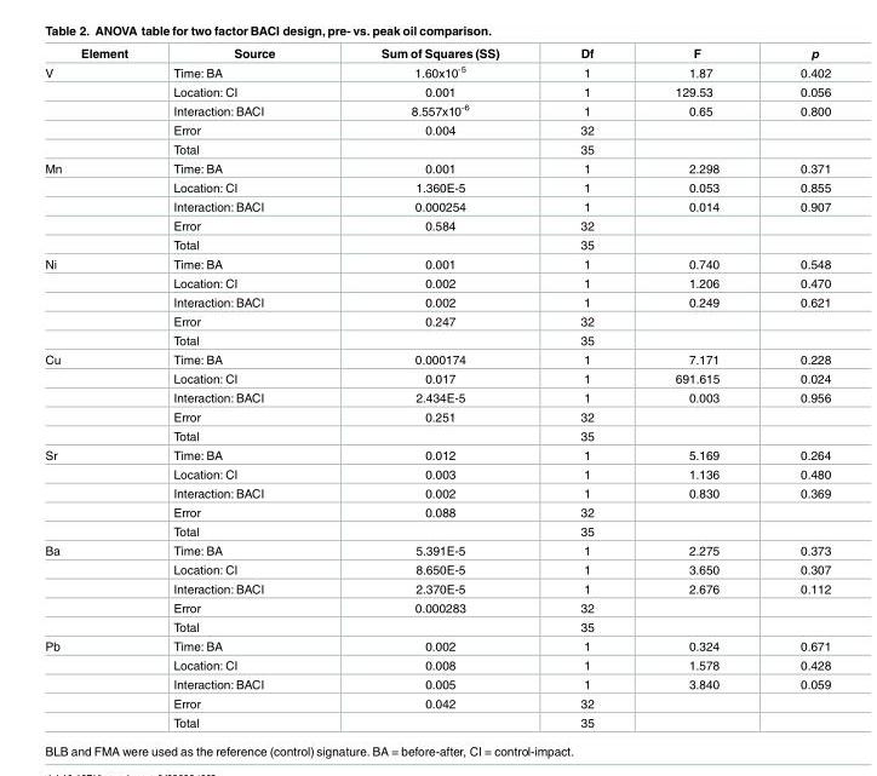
<table><thead><tr><td>Element</td><td>Source</td><td>Sum of Squares (SS)</td><td>Df</td><td>F</td><td>p</td></tr></thead><tbody><tr><td rowspan="5">V</td><td>Time: BA</td><td>1.60x10<sup>-5</sup></td><td>1</td><td>1.87</td><td>0.402</td></tr><tr><td>Location: CI</td><td>0.001</td><td>1</td><td>129.53</td><td>0.056</td></tr><tr><td>Interaction: BACI</td><td>8.557x10<sup>-6</sup></td><td>1</td><td>0.65</td><td>0.800</td></tr><tr><td>Error</td><td>0.004</td><td>32</td><td></td><td></td></tr><tr><td>Total</td><td></td><td>35</td><td></td><td></td></tr><tr><td rowspan="5">Mn</td><td>Time: BA</td><td>0.001</td><td>1</td><td>2.298</td><td>0.371</td></tr><tr><td>Location: CI</td><td>1.360E-5</td><td>1</td><td>0.053</td><td>0.855</td></tr><tr><td>Interaction: BACI</td><td>0.000254</td><td>1</td><td>0.014</td><td>0.907</td></tr><tr><td>Error</td><td>0.584</td><td>32</td><td></td><td></td></tr><tr><td>Total</td><td></td><td>35</td><td></td><td></td></tr><tr><td rowspan="5">Ni</td><td>Time: BA</td><td>0.001</td><td>1</td><td>0.740</td><td>0.548</td></tr><tr><td>Location: CI</td><td>0.002</td><td>1</td><td>1.206</td><td>0.470</td></tr><tr><td>Interaction: BACI</td><td>0.002</td><td>1</td><td>0.249</td><td>0.621</td></tr><tr><td>Error</td><td>0.247</td><td>32</td><td></td><td></td></tr><tr><td>Total</td><td></td><td>35</td><td></td><td></td></tr><tr><td rowspan="5">Cu</td><td>Time: BA</td><td>0.000174</td><td>1</td><td>7.171</td><td>0.228</td></tr><tr><td>Location: CI</td><td>0.017</td><td>1</td><td>691.615</td><td>0.024</td></tr><tr><td>Interaction: BACI</td><td>2.434E-5</td><td>1</td><td>0.003</td><td>0.956</td></tr><tr><td>Error</td><td>0.251</td><td>32</td><td></td><td></td></tr><tr><td>Total</td><td></td><td>35</td><td></td><td></td></tr><tr><td rowspan="5">Sr</td><td>Time: BA</td><td>0.012</td><td>1</td><td>5.169</td><td>0.264</td></tr><tr><td>Location: CI</td><td>0.003</td><td>1</td><td>1.136</td><td>0.480</td></tr><tr><td>Interaction: BACI</td><td>0.002</td><td>1</td><td>0.830</td><td>0.369</td></tr><tr><td>Error</td><td>0.088</td><td>32</td><td></td><td></td></tr><tr><td>Total</td><td></td><td>35</td><td></td><td></td></tr><tr><td rowspan="5">Ba</td><td>Time: BA</td><td>5.391E-5</td><td>1</td><td>2.275</td><td>0.373</td></tr><tr><td>Location: CI</td><td>8.650E-5</td><td>1</td><td>3.650</td><td>0.307</td></tr><tr><td>Interaction: BACI</td><td>2.370E-5</td><td>1</td><td>2.676</td><td>0.112</td></tr><tr><td>Error</td><td>0.000283</td><td>32</td><td></td><td></td></tr><tr><td>Total</td><td></td><td>35</td><td></td><td></td></tr><tr><td rowspan="5">Pb</td><td>Time: BA</td><td>0.002</td><td>1</td><td>0.324</td><td>0.671</td></tr><tr><td>Location: CI</td><td>0.008</td><td>1</td><td>1.578</td><td>0.428</td></tr><tr><td>Interaction: BACI</td><td>0.005</td><td>1</td><td>3.840</td><td>0.059</td></tr><tr><td>Error</td><td>0.042</td><td>32</td><td></td><td></td></tr><tr><td>Total</td><td></td><td>35</td><td></td><td></td></tr></tbody></table>